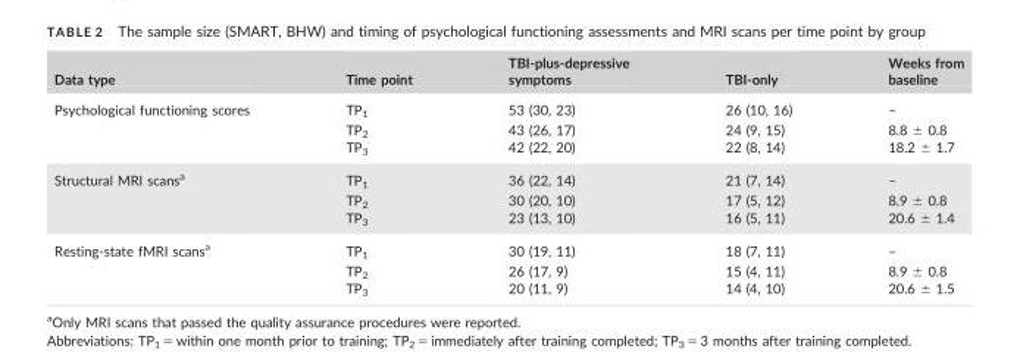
<table><thead><tr><td>Data type</td><td>Time point</td><td>TBI-plus-depressive symptoms</td><td>TBI-only</td><td>Weeks from baseline</td></tr></thead><tbody><tr><td rowspan="3">Psychological functioning scores</td><td>TP<sub>1</sub></td><td>53 (30, 23)</td><td>26 (10, 16)</td><td>–</td></tr><tr><td>TP<sub>2</sub></td><td>43 (26, 17)</td><td>24 (9, 15)</td><td>8.8 ± 0.8</td></tr><tr><td>TP<sub>3</sub></td><td>42 (22, 20)</td><td>22 (8, 14)</td><td>18.2 ± 1.7</td></tr><tr><td rowspan="3">Structural MRI scans<sup>a</sup></td><td>TP<sub>1</sub></td><td>36 (22, 14)</td><td>21 (7, 14)</td><td>–</td></tr><tr><td>TP<sub>2</sub></td><td>30 (20, 10)</td><td>17 (5, 12)</td><td>8.9 ± 0.8</td></tr><tr><td>TP<sub>3</sub></td><td>23 (13, 10)</td><td>16 (5, 11)</td><td>20.6 ± 1.4</td></tr><tr><td rowspan="3">Resting-state fMRI scans<sup>a</sup></td><td>TP<sub>1</sub></td><td>30 (19, 11)</td><td>18 (7, 11)</td><td>–</td></tr><tr><td>TP<sub>2</sub></td><td>26 (17, 9)</td><td>15 (4, 11)</td><td>8.9 ± 0.8</td></tr><tr><td>TP<sub>3</sub></td><td>20 (11, 9)</td><td>14 (4, 10)</td><td>20.6 ± 1.5</td></tr></tbody></table>